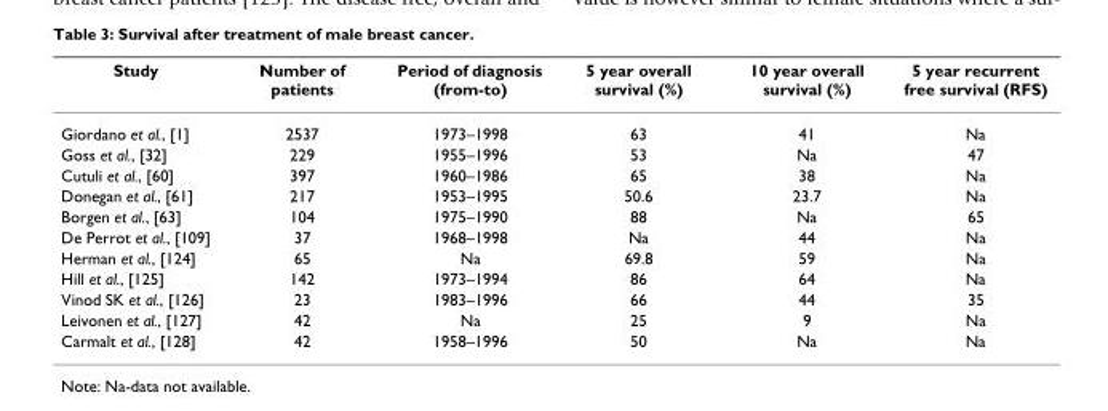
<table><thead><tr><td>Study</td><td>Number of patients</td><td>Period of diagnosis (from-to)</td><td>5 year overall survival (%)</td><td>10 year overall survival (%)</td><td>5 year recurrent free survival (RFS)</td></tr></thead><tbody><tr><td>Giordano et al., [1]</td><td>2537</td><td>1973–1998</td><td>63</td><td>41</td><td>Na</td></tr><tr><td>Goss et al., [32]</td><td>229</td><td>1955–1996</td><td>53</td><td>Na</td><td>47</td></tr><tr><td>Cutuli et al., [60]</td><td>397</td><td>1960–1986</td><td>65</td><td>38</td><td>Na</td></tr><tr><td>Donegan et al., [61]</td><td>217</td><td>1953–1995</td><td>50.6</td><td>23.7</td><td>Na</td></tr><tr><td>Borgen et al., [63]</td><td>104</td><td>1975–1990</td><td>88</td><td>Na</td><td>65</td></tr><tr><td>De Perrot et al., [109]</td><td>37</td><td>1968–1998</td><td>Na</td><td>44</td><td>Na</td></tr><tr><td>Herman et al., [124]</td><td>65</td><td>Na</td><td>69.8</td><td>59</td><td>Na</td></tr><tr><td>Hill et al., [125]</td><td>142</td><td>1973–1994</td><td>86</td><td>64</td><td>Na</td></tr><tr><td>Vinod SK et al., [126]</td><td>23</td><td>1983–1996</td><td>66</td><td>44</td><td>35</td></tr><tr><td>Leivonen et al., [127]</td><td>42</td><td>Na</td><td>25</td><td>9</td><td>Na</td></tr><tr><td>Carmalt et al., [128]</td><td>42</td><td>1958–1996</td><td>50</td><td>Na</td><td>Na</td></tr></tbody></table>